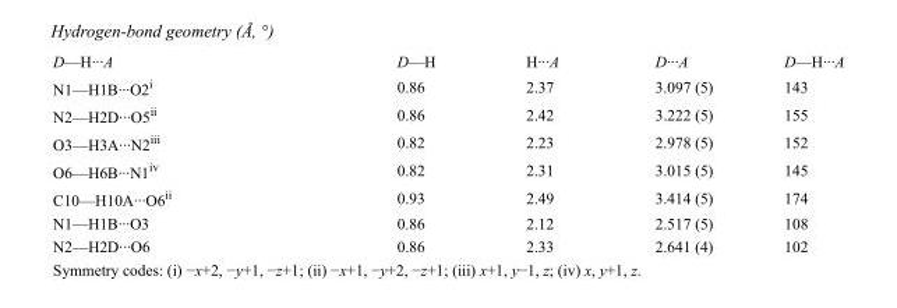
<table><tbody><tr><td>D—H···A</td><td>D—H</td><td>H···A</td><td>D···A</td><td>D—H···A</td></tr><tr><td>N1—H1B···O2<sup>i</sup></td><td>0.86</td><td>2.37</td><td>3.097 (5)</td><td>143</td></tr><tr><td>N2—H2D···O5<sup>ii</sup></td><td>0.86</td><td>2.42</td><td>3.222 (5)</td><td>155</td></tr><tr><td>O3—H3A···N2<sup>iii</sup></td><td>0.82</td><td>2.23</td><td>2.978 (5)</td><td>152</td></tr><tr><td>O6—H6B···N1<sup>iv</sup></td><td>0.82</td><td>2.31</td><td>3.015 (5)</td><td>145</td></tr><tr><td>C10—H10A···O6<sup>ii</sup></td><td>0.93</td><td>2.49</td><td>3.414 (5)</td><td>174</td></tr><tr><td>N1—H1B···O3</td><td>0.86</td><td>2.12</td><td>2.517 (5)</td><td>108</td></tr><tr><td>N2—H2D···O6</td><td>0.86</td><td>2.33</td><td>2.641 (4)</td><td>102</td></tr></tbody></table>